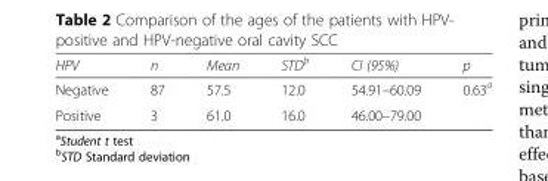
<table><thead><tr><td>HPV</td><td>n</td><td>Mean</td><td>STD<sup>b</sup></td><td>CI (95%)</td><td>p</td></tr></thead><tbody><tr><td>Negative</td><td>87</td><td>57.5</td><td>12.0</td><td>54.91–60.09</td><td rowspan="2">0.63<sup>a</sup></td></tr><tr><td>Positive</td><td>3</td><td>61.0</td><td>16.0</td><td>46.00–79.00</td></tr></tbody></table>